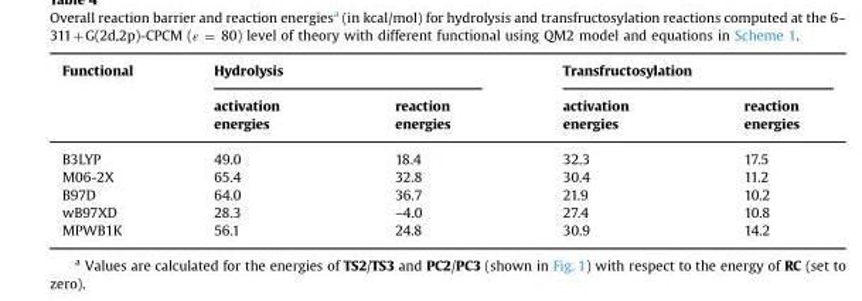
<table><thead><tr><td rowspan="2">Functional</td><td colspan="2">Hydrolysis</td><td colspan="2">Transfructosylation</td></tr><tr><td>activation energies</td><td>reaction energies</td><td>activation energies</td><td>reaction energies</td></tr></thead><tbody><tr><td>B3LYP</td><td>49.0</td><td>18.4</td><td>32.3</td><td>17.5</td></tr><tr><td>M06-2X</td><td>65.4</td><td>32.8</td><td>30.4</td><td>11.2</td></tr><tr><td>B97D</td><td>64.0</td><td>36.7</td><td>21.9</td><td>10.2</td></tr><tr><td>wB97XD</td><td>28.3</td><td>–4.0</td><td>27.4</td><td>10.8</td></tr><tr><td>MPWB1K</td><td>56.1</td><td>24.8</td><td>30.9</td><td>14.2</td></tr></tbody></table>